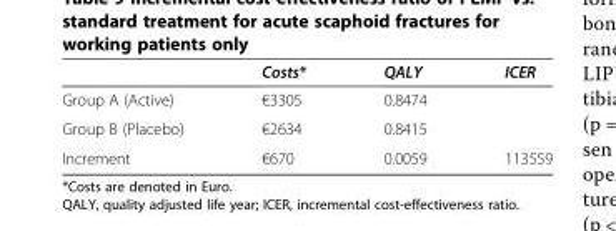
<table><thead><tr><td></td><td>Costs*</td><td>QALY</td><td>ICER</td></tr></thead><tbody><tr><td>Group A (Active)</td><td>€3305</td><td>0.8474</td><td></td></tr><tr><td>Group B (Placebo)</td><td>€2634</td><td>0.8415</td><td></td></tr><tr><td>Increment</td><td>€670</td><td>0.0059</td><td>113559</td></tr></tbody></table>